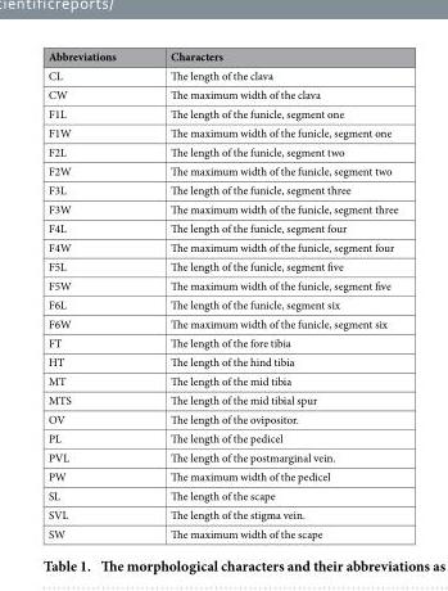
<table><thead><tr><td>Abbreviations</td><td>Characters</td></tr></thead><tbody><tr><td>CL</td><td>The length of the clava</td></tr><tr><td>CW</td><td>The maximum width of the clava</td></tr><tr><td>F1L</td><td>The length of the funicle, segment one</td></tr><tr><td>F1W</td><td>The maximum width of the funicle, segment one</td></tr><tr><td>F2L</td><td>The length of the funicle, segment two</td></tr><tr><td>F2W</td><td>The maximum width of the funicle, segment two</td></tr><tr><td>F3L</td><td>The length of the funicle, segment three</td></tr><tr><td>F3W</td><td>The maximum width of the funicle, segment three</td></tr><tr><td>F4L</td><td>The length of the funicle, segment four</td></tr><tr><td>F4W</td><td>The maximum width of the funicle, segment four</td></tr><tr><td>F5L</td><td>The length of the funicle, segment five</td></tr><tr><td>F5W</td><td>The maximum width of the funicle, segment five</td></tr><tr><td>F6L</td><td>The length of the funicle, segment six</td></tr><tr><td>F6W</td><td>The maximum width of the funicle, segment six</td></tr><tr><td>FT</td><td>The length of the fore tibia</td></tr><tr><td>HT</td><td>The length of the hind tibia</td></tr><tr><td>MT</td><td>The length of the mid tibia</td></tr><tr><td>MTS</td><td>The length of the mid tibial spur</td></tr><tr><td>OV</td><td>The length of the ovipositor.</td></tr><tr><td>PL</td><td>The length of the pedicel</td></tr><tr><td>PVL</td><td>The length of the postmarginal vein.</td></tr><tr><td>PW</td><td>The maximum width of the pedicel</td></tr><tr><td>SL</td><td>The length of the scape</td></tr><tr><td>SVL</td><td>The length of the stigma vein.</td></tr><tr><td>SW</td><td>The maximum width of the scape</td></tr></tbody></table>